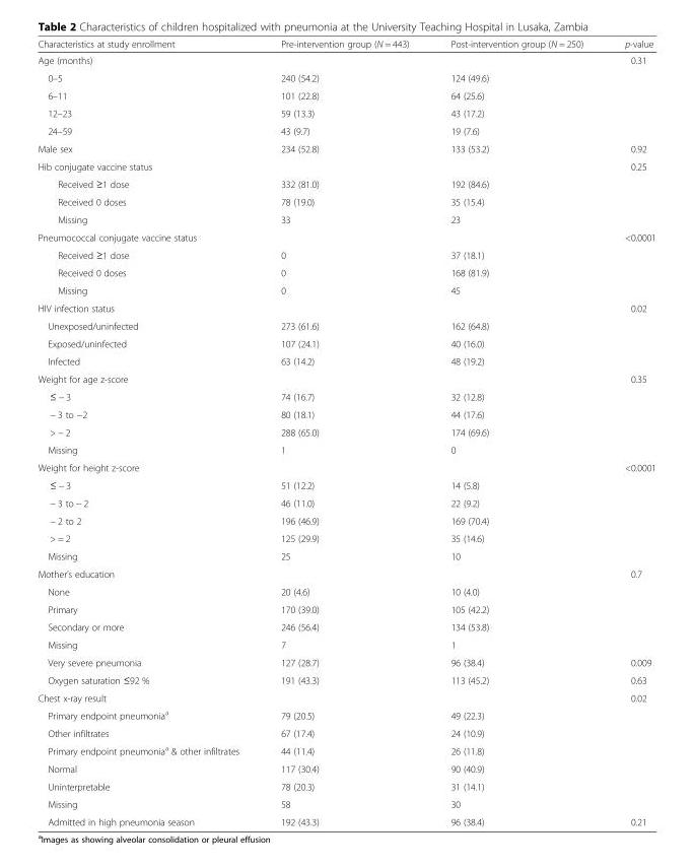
<table><thead><tr><td>Characteristics at study enrollment</td><td>Pre-intervention group (N = 443)</td><td>Post-intervention group (N = 250)</td><td>p-value</td></tr></thead><tbody><tr><td>Age (months)</td><td></td><td></td><td>0.31</td></tr><tr><td>0–5</td><td>240 (54.2)</td><td>124 (49.6)</td><td></td></tr><tr><td>6–11</td><td>101 (22.8)</td><td>64 (25.6)</td><td></td></tr><tr><td>12–23</td><td>59 (13.3)</td><td>43 (17.2)</td><td></td></tr><tr><td>24–59</td><td>43 (9.7)</td><td>19 (7.6)</td><td></td></tr><tr><td>Male sex</td><td>234 (52.8)</td><td>133 (53.2)</td><td>0.92</td></tr><tr><td>Hib conjugate vaccine status</td><td></td><td></td><td>0.25</td></tr><tr><td>Received ≥1 dose</td><td>332 (81.0)</td><td>192 (84.6)</td><td></td></tr><tr><td>Received 0 doses</td><td>78 (19.0)</td><td>35 (15.4)</td><td></td></tr><tr><td>Missing</td><td>33</td><td>23</td><td></td></tr><tr><td>Pneumococcal conjugate vaccine status</td><td></td><td></td><td>&lt;0.0001</td></tr><tr><td>Received ≥1 dose</td><td>0</td><td>37 (18.1)</td><td></td></tr><tr><td>Received 0 doses</td><td>0</td><td>168 (81.9)</td><td></td></tr><tr><td>Missing</td><td>0</td><td>45</td><td></td></tr><tr><td>HIV infection status</td><td></td><td></td><td>0.02</td></tr><tr><td>Unexposed/uninfected</td><td>273 (61.6)</td><td>162 (64.8)</td><td></td></tr><tr><td>Exposed/uninfected</td><td>107 (24.1)</td><td>40 (16.0)</td><td></td></tr><tr><td>Infected</td><td>63 (14.2)</td><td>48 (19.2)</td><td></td></tr><tr><td>Weight for age z-score</td><td></td><td></td><td>0.35</td></tr><tr><td>≤ − 3</td><td>74 (16.7)</td><td>32 (12.8)</td><td></td></tr><tr><td>− 3 to −2</td><td>80 (18.1)</td><td>44 (17.6)</td><td></td></tr><tr><td>&gt; − 2</td><td>288 (65.0)</td><td>174 (69.6)</td><td></td></tr><tr><td>Missing</td><td>1</td><td>0</td><td></td></tr><tr><td>Weight for height z-score</td><td></td><td></td><td>&lt;0.0001</td></tr><tr><td>≤ − 3</td><td>51 (12.2)</td><td>14 (5.8)</td><td></td></tr><tr><td>− 3 to − 2</td><td>46 (11.0)</td><td>22 (9.2)</td><td></td></tr><tr><td>− 2 to 2</td><td>196 (46.9)</td><td>169 (70.4)</td><td></td></tr><tr><td>&gt; = 2</td><td>125 (29.9)</td><td>35 (14.6)</td><td></td></tr><tr><td>Missing</td><td>25</td><td>10</td><td></td></tr><tr><td>Mother’s education</td><td></td><td></td><td>0.7</td></tr><tr><td>None</td><td>20 (4.6)</td><td>10 (4.0)</td><td></td></tr><tr><td>Primary</td><td>170 (39.0)</td><td>105 (42.2)</td><td></td></tr><tr><td>Secondary or more</td><td>246 (56.4)</td><td>134 (53.8)</td><td></td></tr><tr><td>Missing</td><td>7</td><td>1</td><td></td></tr><tr><td>Very severe pneumonia</td><td>127 (28.7)</td><td>96 (38.4)</td><td>0.009</td></tr><tr><td>Oxygen saturation ≤92 %</td><td>191 (43.3)</td><td>113 (45.2)</td><td>0.63</td></tr><tr><td>Chest x-ray result</td><td></td><td></td><td>0.02</td></tr><tr><td>Primary endpoint pneumonia<sup>a</sup></td><td>79 (20.5)</td><td>49 (22.3)</td><td></td></tr><tr><td>Other infiltrates</td><td>67 (17.4)</td><td>24 (10.9)</td><td></td></tr><tr><td>Primary endpoint pneumonia<sup>a</sup> &amp; other infiltrates</td><td>44 (11.4)</td><td>26 (11.8)</td><td></td></tr><tr><td>Normal</td><td>117 (30.4)</td><td>90 (40.9)</td><td></td></tr><tr><td>Uninterpretable</td><td>78 (20.3)</td><td>31 (14.1)</td><td></td></tr><tr><td>Missing</td><td>58</td><td>30</td><td></td></tr><tr><td>Admitted in high pneumonia season</td><td>192 (43.3)</td><td>96 (38.4)</td><td>0.21</td></tr></tbody></table>